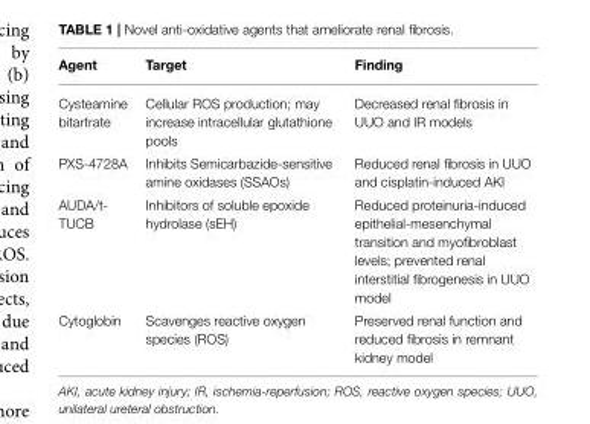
<table><thead><tr><td>Agent</td><td>Target</td><td>Finding</td></tr></thead><tbody><tr><td>Cysteamine bitartrate</td><td>Cellular ROS production; may increase intracellular glutathione pools</td><td>Decreased renal fibrosis in UUO and IR models</td></tr><tr><td>PXS-4728A</td><td>Inhibits Semicarbazide-sensitive amine oxidases (SSAOs)</td><td>Reduced renal fibrosis in UUO and cisplatin-induced AKI</td></tr><tr><td>AUDA/t- TUCB</td><td>Inhibitors of soluble epoxide hydrolase (sEH)</td><td>Reduced proteinuria-induced epithelial-mesenchymal transition and myofibroblast levels; prevented renal interstitial fibrogenesis in UUO model</td></tr><tr><td>Cytoglobin</td><td>Scavenges reactive oxygen species (ROS)</td><td>Preserved renal function and reduced fibrosis in remnant kidney model</td></tr></tbody></table>